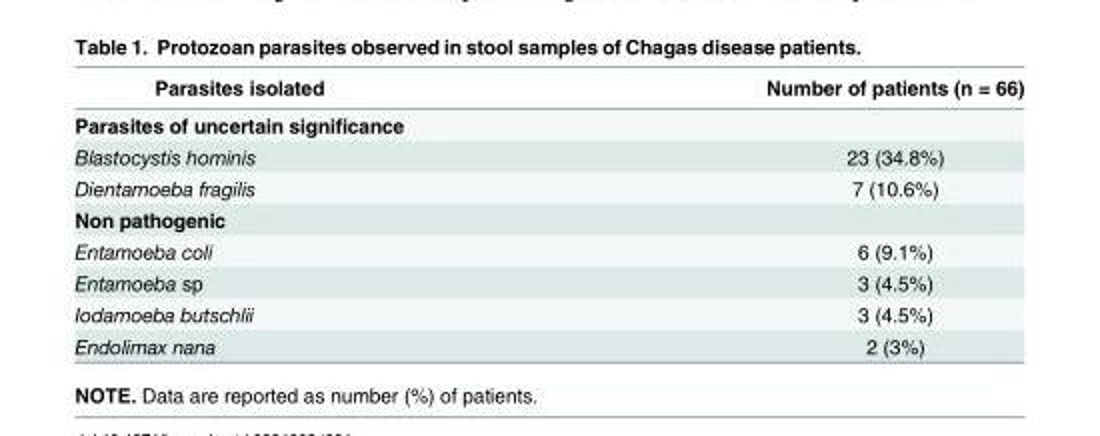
<table><thead><tr><td>Parasites isolated</td><td>Number of patients (n = 66)</td></tr></thead><tbody><tr><td colspan="2">Parasites of uncertain significance</td></tr><tr><td>Blastocystis hominis</td><td>23 (34.8%)</td></tr><tr><td>Dientamoeba fragilis</td><td>7 (10.6%)</td></tr><tr><td colspan="2">Non pathogenic</td></tr><tr><td>Entamoeba coli</td><td>6 (9.1%)</td></tr><tr><td>Entamoeba sp</td><td>3 (4.5%)</td></tr><tr><td>Iodamoeba butschlii</td><td>3 (4.5%)</td></tr><tr><td>Endolimax nana</td><td>2 (3%)</td></tr></tbody></table>